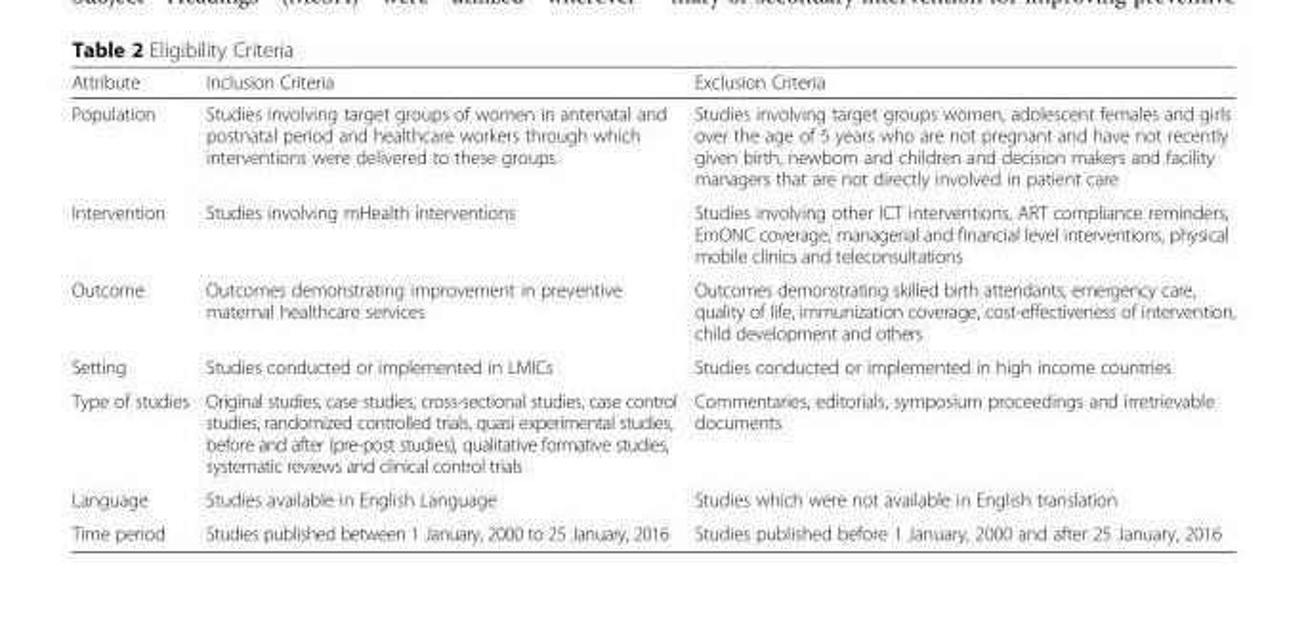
<table><thead><tr><td>Attribute</td><td>Inclusion Criteria</td><td>Exclusion Criteria</td></tr></thead><tbody><tr><td>Population</td><td>Studies involving target groups of women in antenatal and postnatal period and healthcare workers through which interventions were delivered to these groups.</td><td>Studies involving target groups women, adolescent females and girls over the age of 5 years who are not pregnant and have not recently given birth, newborn and children and decision makers and facility managers that are not directly involved in patient care</td></tr><tr><td>Intervention</td><td>Studies involving mHealth interventions</td><td>Studies involving other ICT interventions, ART compliance reminders, EmONC coverage, managerial and financial level interventions, physical mobile clinics and teleconsultations</td></tr><tr><td>Outcome</td><td>Outcomes demonstrating improvement in preventive maternal healthcare services</td><td>Outcomes demonstrating skilled birth attendants, emergency care, quality of life, immunization coverage, cost-effectiveness of intervention, child development and others</td></tr><tr><td>Setting</td><td>Studies conducted or implemented in LMICs</td><td>Studies conducted or implemented in high income countries</td></tr><tr><td>Type of studies</td><td>Original studies, case studies, cross-sectional studies, case control studies, randomized controlled trials, quasi experimental studies, before and after (pre-post studies), qualitative formative studies, systematic reviews and clinical control trials</td><td>Commentaries, editorials, symposium proceedings and irretrievable documents</td></tr><tr><td>Language</td><td>Studies available in English Language</td><td>Studies which were not available in English translation</td></tr><tr><td>Time period</td><td>Studies published between 1 January, 2000 to 25 January, 2016</td><td>Studies published before 1 January, 2000 and after 25 January, 2016</td></tr></tbody></table>